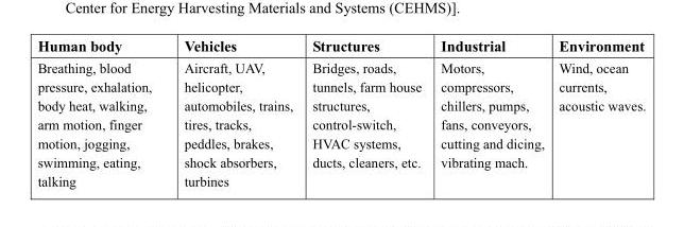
<table><thead><tr><td>Human body</td><td>Vehicles</td><td>Structures</td><td>Industrial</td><td>Environment</td></tr></thead><tbody><tr><td>Breathing, blood pressure, exhalation, body heat, walking, arm motion, finger motion, jogging, swimming, eating, talking</td><td>Aircraft, UAV, helicopter, automobiles, trains, tires, tracks, peddles, brakes, shock absorbers, turbines</td><td>Bridges, roads, tunnels, farm house structures, control-switch, HVAC systems, ducts, cleaners, etc.</td><td>Motors, compressors, chillers, pumps, fans, conveyors, cutting and dicing, vibrating mach.</td><td>Wind, ocean currents, acoustic waves.</td></tr></tbody></table>